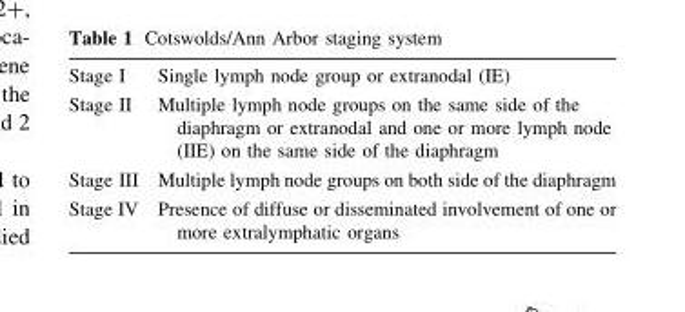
<table><tbody><tr><td>Stage I</td><td>Single lymph node group or extranodal (IE)</td></tr><tr><td>Stage II</td><td>Multiple lymph node groups on the same side of the diaphragm or extranodal and one or more lymph node (IIE) on the same side of the diaphragm</td></tr><tr><td>Stage III</td><td>Multiple lymph node groups on both side of the diaphragm</td></tr><tr><td>Stage IV</td><td>Presence of diffuse or disseminated involvement of one or more extralymphatic organs</td></tr></tbody></table>